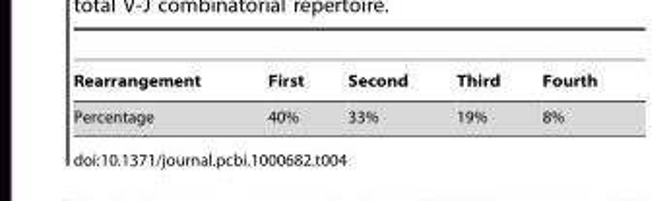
<table><thead><tr><td>Rearrangement</td><td>First</td><td>Second</td><td>Third</td><td>Fourth</td></tr></thead><tbody><tr><td>Percentage</td><td>40%</td><td>33%</td><td>19%</td><td>8%</td></tr></tbody></table>